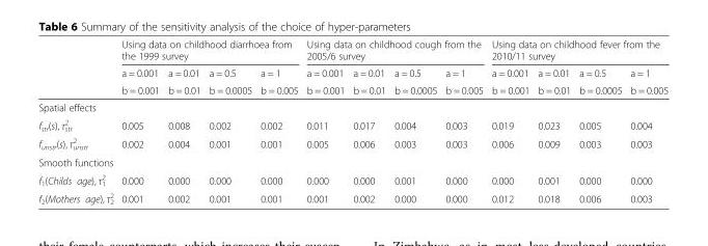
<table><thead><tr><td rowspan="3"></td><td colspan="4">Using data on childhood diarrhoea from the 1999 survey</td><td colspan="4">Using data on childhood cough from the 2005/6 survey</td><td colspan="4">Using data on childhood fever from the 2010/11 survey</td></tr><tr><td rowspan="2">a = 0.001 b = 0.001</td><td rowspan="2">a = 0.01 b = 0.01</td><td rowspan="2">a = 0.5 b = 0.0005</td><td rowspan="2">a = 1 b = 0.005</td><td rowspan="2">a = 0.001 b = 0.001</td><td rowspan="2">a = 0.01 b = 0.01</td><td rowspan="2">a = 0.5 b = 0.0005</td><td rowspan="2">a = 1 b = 0.005</td><td rowspan="2">a = 0.001 b = 0.001</td><td rowspan="2">a = 0.01 b = 0.01</td><td rowspan="2">a = 0.5 b = 0.0005</td><td rowspan="2">a = 1 b = 0.005</td></tr><tr></tr></thead><tbody><tr><td colspan="13">Spatial effects</td></tr><tr><td>f<sub>str</sub>(s), τ<sub>str</sub> <sup>2</sup></td><td>0.005</td><td>0.008</td><td>0.002</td><td>0.002</td><td>0.011</td><td>0.017</td><td>0.004</td><td>0.003</td><td>0.019</td><td>0.023</td><td>0.005</td><td>0.004</td></tr><tr><td>f<sub>unstr</sub>(s), τ<sub>unstr</sub> <sup>2</sup></td><td>0.002</td><td>0.004</td><td>0.001</td><td>0.001</td><td>0.005</td><td>0.006</td><td>0.003</td><td>0.003</td><td>0.006</td><td>0.009</td><td>0.003</td><td>0.003</td></tr><tr><td colspan="13">Smooth functions</td></tr><tr><td>f<sub>1</sub>(Childs age), τ<sub>1</sub> <sup>2</sup></td><td>0.000</td><td>0.000</td><td>0.000</td><td>0.000</td><td>0.000</td><td>0.000</td><td>0.001</td><td>0.000</td><td>0.000</td><td>0.001</td><td>0.000</td><td>0.000</td></tr><tr><td>f<sub>2</sub>(Mothers age), τ<sub>2</sub> <sup>2</sup></td><td>0.001</td><td>0.002</td><td>0.001</td><td>0.001</td><td>0.001</td><td>0.002</td><td>0.000</td><td>0.000</td><td>0.012</td><td>0.018</td><td>0.006</td><td>0.003</td></tr></tbody></table>